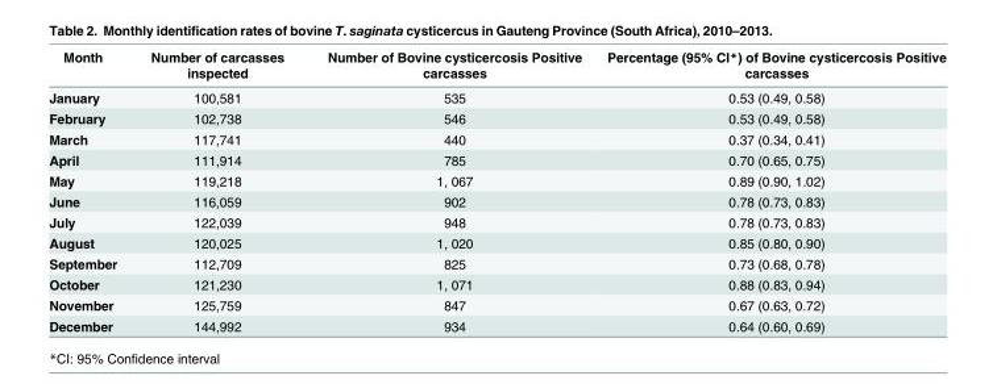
<table><thead><tr><td>Month</td><td>Number of carcasses inspected</td><td>Number of Bovine cysticercosis Positive carcasses</td><td>Percentage (95% CI*) of Bovine cysticercosis Positive carcasses</td></tr></thead><tbody><tr><td>January</td><td>100,581</td><td>535</td><td>0.53 (0.49, 0.58)</td></tr><tr><td>February</td><td>102,738</td><td>546</td><td>0.53 (0.49, 0.58)</td></tr><tr><td>March</td><td>117,741</td><td>440</td><td>0.37 (0.34, 0.41)</td></tr><tr><td>April</td><td>111,914</td><td>785</td><td>0.70 (0.65, 0.75)</td></tr><tr><td>May</td><td>119,218</td><td>1, 067</td><td>0.89 (0.90, 1.02)</td></tr><tr><td>June</td><td>116,059</td><td>902</td><td>0.78 (0.73, 0.83)</td></tr><tr><td>July</td><td>122,039</td><td>948</td><td>0.78 (0.73, 0.83)</td></tr><tr><td>August</td><td>120,025</td><td>1, 020</td><td>0.85 (0.80, 0.90)</td></tr><tr><td>September</td><td>112,709</td><td>825</td><td>0.73 (0.68, 0.78)</td></tr><tr><td>October</td><td>121,230</td><td>1, 071</td><td>0.88 (0.83, 0.94)</td></tr><tr><td>November</td><td>125,759</td><td>847</td><td>0.67 (0.63, 0.72)</td></tr><tr><td>December</td><td>144,992</td><td>934</td><td>0.64 (0.60, 0.69)</td></tr></tbody></table>